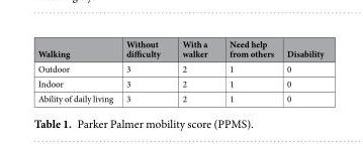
<table><thead><tr><td>Walking</td><td>Without difficulty</td><td>With a walker</td><td>Need help from others</td><td>Disability</td></tr></thead><tbody><tr><td>Outdoor</td><td>3</td><td>2</td><td>1</td><td>0</td></tr><tr><td>Indoor</td><td>3</td><td>2</td><td>1</td><td>0</td></tr><tr><td>Ability of daily living</td><td>3</td><td>2</td><td>1</td><td>0</td></tr></tbody></table>